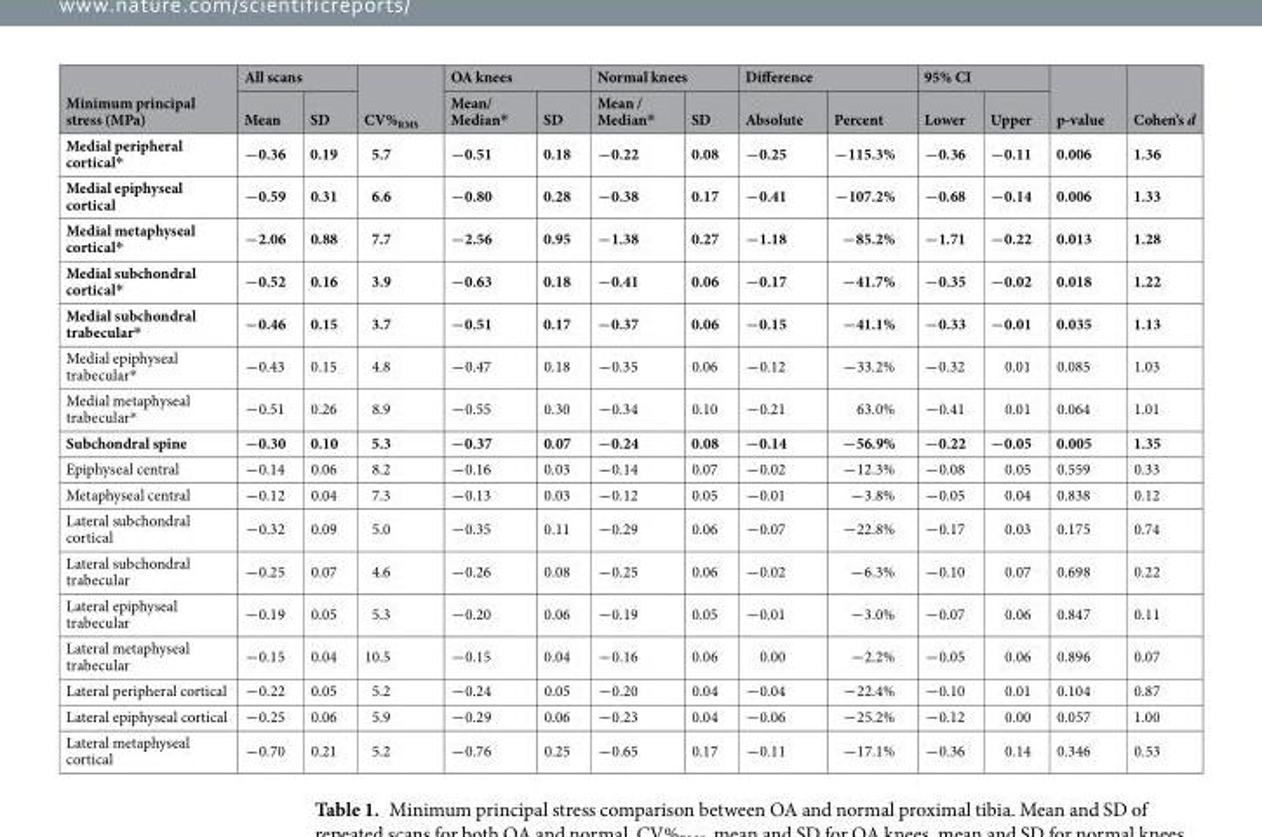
<table><thead><tr><td rowspan="2">Minimum principal stress (MPa)</td><td colspan="2">All scans</td><td rowspan="2">CV%<sub>RMS</sub></td><td colspan="2">OA knees</td><td colspan="2">Normal knees</td><td colspan="2">Difference</td><td colspan="2">95% CI</td><td rowspan="2">p-value</td><td rowspan="2">Cohen’s d</td></tr><tr><td>Mean</td><td>SD</td><td>Mean/ Median*</td><td>SD</td><td>Mean / Median*</td><td>SD</td><td>Absolute</td><td>Percent</td><td>Lower</td><td>Upper</td></tr></thead><tbody><tr><td>Medial peripheral cortical*</td><td>−0.36</td><td>0.19</td><td>5.7</td><td>−0.51</td><td>0.18</td><td>−0.22</td><td>0.08</td><td>−0.25</td><td>−115.3%</td><td>−0.36</td><td>−0.11</td><td>0.006</td><td>1.36</td></tr><tr><td>Medial epiphyseal cortical</td><td>−0.59</td><td>0.31</td><td>6.6</td><td>−0.80</td><td>0.28</td><td>−0.38</td><td>0.17</td><td>−0.41</td><td>−107.2%</td><td>−0.68</td><td>−0.14</td><td>0.006</td><td>1.33</td></tr><tr><td>Medial metaphyseal cortical*</td><td>−2.06</td><td>0.88</td><td>7.7</td><td>−2.56</td><td>0.95</td><td>−1.38</td><td>0.27</td><td>−1.18</td><td>−85.2%</td><td>−1.71</td><td>−0.22</td><td>0.013</td><td>1.28</td></tr><tr><td>Medial subchondral cortical*</td><td>−0.52</td><td>0.16</td><td>3.9</td><td>−0.63</td><td>0.18</td><td>−0.41</td><td>0.06</td><td>−0.17</td><td>−41.7%</td><td>−0.35</td><td>−0.02</td><td>0.018</td><td>1.22</td></tr><tr><td>Medial subchondral trabecular*</td><td>−0.46</td><td>0.15</td><td>3.7</td><td>−0.51</td><td>0.17</td><td>−0.37</td><td>0.06</td><td>−0.15</td><td>−41.1%</td><td>−0.33</td><td>−0.01</td><td>0.035</td><td>1.13</td></tr><tr><td>Medial epiphyseal trabecular*</td><td>−0.43</td><td>0.15</td><td>4.8</td><td>−0.47</td><td>0.18</td><td>−0.35</td><td>0.06</td><td>−0.12</td><td>−33.2%</td><td>−0.32</td><td>0.01</td><td>0.085</td><td>1.03</td></tr><tr><td>Medial metaphyseal trabecular*</td><td>−0.51</td><td>0.26</td><td>8.9</td><td>−0.55</td><td>0.30</td><td>−0.34</td><td>0.10</td><td>−0.21</td><td>63.0%</td><td>−0.41</td><td>0.01</td><td>0.064</td><td>1.01</td></tr><tr><td>Subchondral spine</td><td>−0.30</td><td>0.10</td><td>5.3</td><td>−0.37</td><td>0.07</td><td>−0.24</td><td>0.08</td><td>−0.14</td><td>−56.9%</td><td>−0.22</td><td>−0.05</td><td>0.005</td><td>1.35</td></tr><tr><td>Epiphyseal central</td><td>−0.14</td><td>0.06</td><td>8.2</td><td>−0.16</td><td>0.03</td><td>−0.14</td><td>0.07</td><td>−0.02</td><td>−12.3%</td><td>−0.08</td><td>0.05</td><td>0.559</td><td>0.33</td></tr><tr><td>Metaphyseal central</td><td>−0.12</td><td>0.04</td><td>7.3</td><td>−0.13</td><td>0.03</td><td>−0.12</td><td>0.05</td><td>−0.01</td><td>−3.8%</td><td>−0.05</td><td>0.04</td><td>0.838</td><td>0.12</td></tr><tr><td>Lateral subchondral cortical</td><td>−0.32</td><td>0.09</td><td>5.0</td><td>−0.35</td><td>0.11</td><td>−0.29</td><td>0.06</td><td>−0.07</td><td>−22.8%</td><td>−0.17</td><td>0.03</td><td>0.175</td><td>0.74</td></tr><tr><td>Lateral subchondral trabecular</td><td>−0.25</td><td>0.07</td><td>4.6</td><td>−0.26</td><td>0.08</td><td>−0.25</td><td>0.06</td><td>−0.02</td><td>−6.3%</td><td>−0.10</td><td>0.07</td><td>0.698</td><td>0.22</td></tr><tr><td>Lateral epiphyseal trabecular</td><td>−0.19</td><td>0.05</td><td>5.3</td><td>−0.20</td><td>0.06</td><td>−0.19</td><td>0.05</td><td>−0.01</td><td>−3.0%</td><td>−0.07</td><td>0.06</td><td>0.847</td><td>0.11</td></tr><tr><td>Lateral metaphyseal trabecular</td><td>−0.15</td><td>0.04</td><td>10.5</td><td>−0.15</td><td>0.04</td><td>−0.16</td><td>0.06</td><td>0.00</td><td>−2.2%</td><td>−0.05</td><td>0.06</td><td>0.896</td><td>0.07</td></tr><tr><td>Lateral peripheral cortical</td><td>−0.22</td><td>0.05</td><td>5.2</td><td>−0.24</td><td>0.05</td><td>−0.20</td><td>0.04</td><td>−0.04</td><td>−22.4%</td><td>−0.10</td><td>0.01</td><td>0.104</td><td>0.87</td></tr><tr><td>Lateral epiphyseal cortical</td><td>−0.25</td><td>0.06</td><td>5.9</td><td>−0.29</td><td>0.06</td><td>−0.23</td><td>0.04</td><td>−0.06</td><td>−25.2%</td><td>−0.12</td><td>0.00</td><td>0.057</td><td>1.00</td></tr><tr><td>Lateral metaphyseal cortical</td><td>−0.70</td><td>0.21</td><td>5.2</td><td>−0.76</td><td>0.25</td><td>−0.65</td><td>0.17</td><td>−0.11</td><td>−17.1%</td><td>−0.36</td><td>0.14</td><td>0.346</td><td>0.53</td></tr></tbody></table>